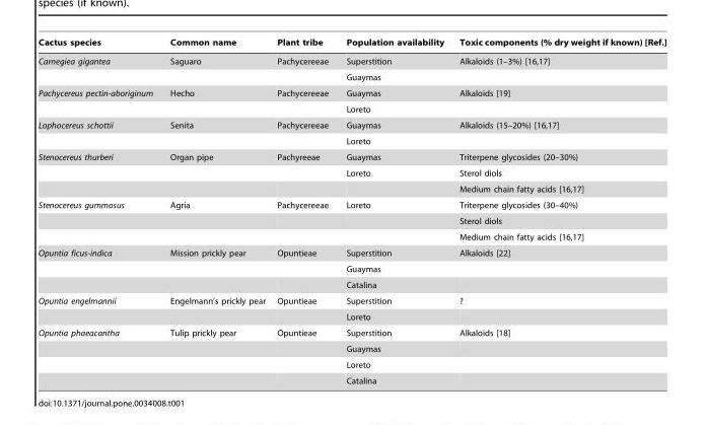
<table><thead><tr><td>Cactus species</td><td>Common name</td><td>Plant tribe</td><td>Population availability</td><td>Toxic components (% dry weight if known) [Ref.]</td></tr></thead><tbody><tr><td rowspan="2">Carnegiea gigantea</td><td>Saguaro</td><td>Pachycereeae</td><td>Superstition</td><td>Alkaloids (1–3%) [16,17]</td></tr><tr><td></td><td></td><td>Guaymas</td><td></td></tr><tr><td rowspan="2">Pachycereus pectin-aboriginum</td><td>Hecho</td><td>Pachycereeae</td><td>Guaymas</td><td>Alkaloids [19]</td></tr><tr><td></td><td></td><td>Loreto</td><td></td></tr><tr><td rowspan="2">Lophocereus schottii</td><td>Senita</td><td>Pachycereeae</td><td>Guaymas</td><td>Alkaloids (15–20%) [16,17]</td></tr><tr><td></td><td></td><td>Loreto</td><td></td></tr><tr><td rowspan="3">Stenocereus thurberi</td><td>Organ pipe</td><td>Pachyreeae</td><td>Guaymas</td><td>Triterpene glycosides (20–30%)</td></tr><tr><td></td><td></td><td>Loreto</td><td>Sterol diols</td></tr><tr><td></td><td></td><td></td><td>Medium chain fatty acids [16,17]</td></tr><tr><td rowspan="3">Stenocereus gummosus</td><td>Agria</td><td>Pachycereeae</td><td>Loreto</td><td>Triterpene glycosides (30–40%)</td></tr><tr><td></td><td></td><td></td><td>Sterol diols</td></tr><tr><td></td><td></td><td></td><td>Medium chain fatty acids [16,17]</td></tr><tr><td rowspan="3">Opuntia ficus-indica</td><td>Mission prickly pear</td><td>Opuntieae</td><td>Superstition</td><td>Alkaloids [22]</td></tr><tr><td></td><td></td><td>Guaymas</td><td></td></tr><tr><td></td><td></td><td>Catalina</td><td></td></tr><tr><td rowspan="2">Opuntia engelmannii</td><td>Engelmann’s prickly pear</td><td>Opuntieae</td><td>Superstition</td><td>?</td></tr><tr><td></td><td></td><td>Loreto</td><td></td></tr><tr><td rowspan="4">Opuntia phaeacantha</td><td>Tulip prickly pear</td><td>Opuntieae</td><td>Superstition</td><td>Alkaloids [18]</td></tr><tr><td></td><td></td><td>Guaymas</td><td></td></tr><tr><td></td><td></td><td>Loreto</td><td></td></tr><tr><td></td><td></td><td>Catalina</td><td></td></tr></tbody></table>